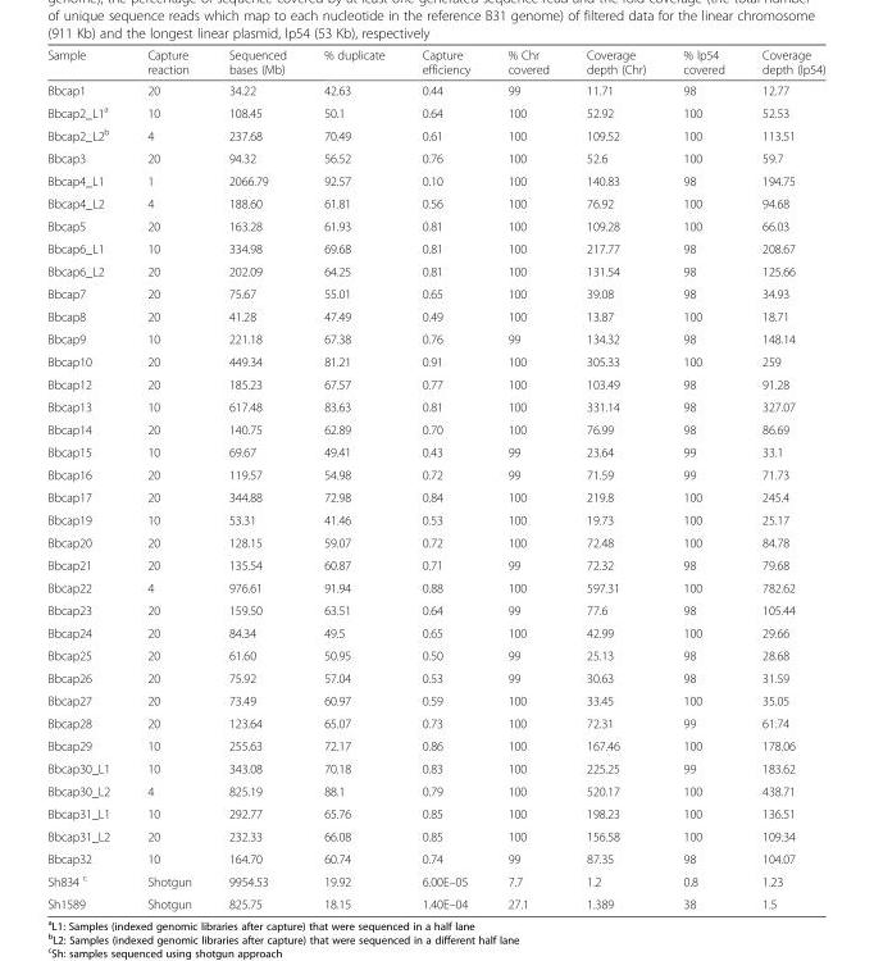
<table><thead><tr><td>Sample</td><td>Capture reaction</td><td>Sequenced bases (Mb)</td><td>% duplicate</td><td>Capture efficiency</td><td>% Chr covered</td><td>Coverage depth (Chr)</td><td>% lp54 covered</td><td>Coverage depth (lp54)</td></tr></thead><tbody><tr><td>Bbcap1</td><td>20</td><td>34.22</td><td>42.63</td><td>0.44</td><td>99</td><td>11.71</td><td>98</td><td>12.77</td></tr><tr><td>Bbcap2_L1<sup>a</sup></td><td>10</td><td>108.45</td><td>50.1</td><td>0.64</td><td>100</td><td>52.92</td><td>100</td><td>52.53</td></tr><tr><td>Bbcap2_L2<sup>b</sup></td><td>4</td><td>237.68</td><td>70.49</td><td>0.61</td><td>100</td><td>109.52</td><td>100</td><td>113.51</td></tr><tr><td>Bbcap3</td><td>20</td><td>94.32</td><td>56.52</td><td>0.76</td><td>100</td><td>52.6</td><td>100</td><td>59.7</td></tr><tr><td>Bbcap4_L1</td><td>1</td><td>2066.79</td><td>92.57</td><td>0.10</td><td>100</td><td>140.83</td><td>98</td><td>194.75</td></tr><tr><td>Bbcap4_L2</td><td>4</td><td>188.60</td><td>61.81</td><td>0.56</td><td>100</td><td>76.92</td><td>100</td><td>94.68</td></tr><tr><td>Bbcap5</td><td>20</td><td>163.28</td><td>61.93</td><td>0.81</td><td>100</td><td>109.28</td><td>100</td><td>66.03</td></tr><tr><td>Bbcap6_L1</td><td>10</td><td>334.98</td><td>69.68</td><td>0.81</td><td>100</td><td>217.77</td><td>98</td><td>208.67</td></tr><tr><td>Bbcap6_L2</td><td>20</td><td>202.09</td><td>64.25</td><td>0.81</td><td>100</td><td>131.54</td><td>98</td><td>125.66</td></tr><tr><td>Bbcap7</td><td>20</td><td>75.67</td><td>55.01</td><td>0.65</td><td>100</td><td>39.08</td><td>98</td><td>34.93</td></tr><tr><td>Bbcap8</td><td>20</td><td>41.28</td><td>47.49</td><td>0.49</td><td>100</td><td>13.87</td><td>100</td><td>18.71</td></tr><tr><td>Bbcap9</td><td>10</td><td>221.18</td><td>67.38</td><td>0.76</td><td>99</td><td>134.32</td><td>98</td><td>148.14</td></tr><tr><td>Bbcap10</td><td>20</td><td>449.34</td><td>81.21</td><td>0.91</td><td>100</td><td>305.33</td><td>100</td><td>259</td></tr><tr><td>Bbcap12</td><td>20</td><td>185.23</td><td>67.57</td><td>0.77</td><td>100</td><td>103.49</td><td>98</td><td>91.28</td></tr><tr><td>Bbcap13</td><td>10</td><td>617.48</td><td>83.63</td><td>0.81</td><td>100</td><td>331.14</td><td>98</td><td>327.07</td></tr><tr><td>Bbcap14</td><td>20</td><td>140.75</td><td>62.89</td><td>0.70</td><td>100</td><td>76.99</td><td>98</td><td>86.69</td></tr><tr><td>Bbcap15</td><td>10</td><td>69.67</td><td>49.41</td><td>0.43</td><td>99</td><td>23.64</td><td>99</td><td>33.1</td></tr><tr><td>Bbcap16</td><td>20</td><td>119.57</td><td>54.98</td><td>0.72</td><td>99</td><td>71.59</td><td>99</td><td>71.73</td></tr><tr><td>Bbcap17</td><td>20</td><td>344.88</td><td>72.98</td><td>0.84</td><td>100</td><td>219.8</td><td>100</td><td>245.4</td></tr><tr><td>Bbcap19</td><td>10</td><td>53.31</td><td>41.46</td><td>0.53</td><td>100</td><td>19.73</td><td>100</td><td>25.17</td></tr><tr><td>Bbcap20</td><td>20</td><td>128.15</td><td>59.07</td><td>0.72</td><td>100</td><td>72.48</td><td>100</td><td>84.78</td></tr><tr><td>Bbcap21</td><td>20</td><td>135.54</td><td>60.87</td><td>0.71</td><td>99</td><td>72.32</td><td>98</td><td>79.68</td></tr><tr><td>Bbcap22</td><td>4</td><td>976.61</td><td>91.94</td><td>0.88</td><td>100</td><td>597.31</td><td>100</td><td>782.62</td></tr><tr><td>Bbcap23</td><td>20</td><td>159.50</td><td>63.51</td><td>0.64</td><td>99</td><td>77.6</td><td>98</td><td>105.44</td></tr><tr><td>Bbcap24</td><td>20</td><td>84.34</td><td>49.5</td><td>0.65</td><td>100</td><td>42.99</td><td>100</td><td>29.66</td></tr><tr><td>Bbcap25</td><td>20</td><td>61.60</td><td>50.95</td><td>0.50</td><td>99</td><td>25.13</td><td>98</td><td>28.68</td></tr><tr><td>Bbcap26</td><td>20</td><td>75.92</td><td>57.04</td><td>0.53</td><td>99</td><td>30.63</td><td>98</td><td>31.59</td></tr><tr><td>Bbcap27</td><td>20</td><td>73.49</td><td>60.97</td><td>0.59</td><td>100</td><td>33.45</td><td>100</td><td>35.05</td></tr><tr><td>Bbcap28</td><td>20</td><td>123.64</td><td>65.07</td><td>0.73</td><td>100</td><td>72.31</td><td>99</td><td>61.74</td></tr><tr><td>Bbcap29</td><td>10</td><td>255.63</td><td>72.17</td><td>0.86</td><td>100</td><td>167.46</td><td>100</td><td>178.06</td></tr><tr><td>Bbcap30_L1</td><td>10</td><td>343.08</td><td>70.18</td><td>0.83</td><td>100</td><td>225.25</td><td>99</td><td>183.62</td></tr><tr><td>Bbcap30_L2</td><td>4</td><td>825.19</td><td>88.1</td><td>0.79</td><td>100</td><td>520.17</td><td>100</td><td>438.71</td></tr><tr><td>Bbcap31_L1</td><td>10</td><td>292.77</td><td>65.76</td><td>0.85</td><td>100</td><td>198.23</td><td>100</td><td>136.51</td></tr><tr><td>Bbcap31_L2</td><td>20</td><td>232.33</td><td>66.08</td><td>0.85</td><td>100</td><td>156.58</td><td>100</td><td>109.34</td></tr><tr><td>Bbcap32</td><td>10</td><td>164.70</td><td>60.74</td><td>0.74</td><td>99</td><td>87.35</td><td>98</td><td>104.07</td></tr><tr><td>Sh834 <sup>c</sup></td><td>Shotgun</td><td>9954.53</td><td>19.92</td><td>6.00E–05</td><td>7.7</td><td>1.2</td><td>0.8</td><td>1.23</td></tr><tr><td>Sh1589</td><td>Shotgun</td><td>825.75</td><td>18.15</td><td>1.40E–04</td><td>27.1</td><td>1.389</td><td>38</td><td>1.5</td></tr></tbody></table>